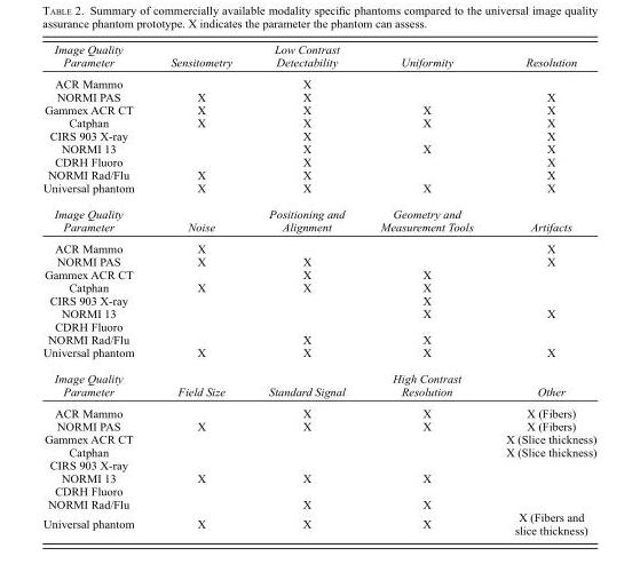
<table><thead><tr><td>Image Quality Parameter</td><td>Sensitometry</td><td>Low Contrast Detectability</td><td>Uniformity</td><td>Resolution</td></tr></thead><tbody><tr><td>ACR Mammo</td><td></td><td>X</td><td></td><td></td></tr><tr><td>NORMI PAS</td><td>X</td><td>X</td><td></td><td>X</td></tr><tr><td>Gammex ACR CT</td><td>X</td><td>X</td><td>X</td><td>X</td></tr><tr><td>Catphan</td><td>X</td><td>X</td><td>X</td><td>X</td></tr><tr><td>CIRS 903 X-ray</td><td></td><td>X</td><td></td><td>X</td></tr><tr><td>NORMI 13</td><td></td><td>X</td><td>X</td><td>X</td></tr><tr><td>CDRH Fluoro</td><td></td><td>X</td><td></td><td>X</td></tr><tr><td>NORMI Rad/Flu</td><td>X</td><td>X</td><td></td><td>X</td></tr><tr><td>Universal phantom</td><td>X</td><td>X</td><td>X</td><td>X</td></tr><tr><td>Image Quality Parameter</td><td>Noise</td><td>Positioning and Alignment</td><td>Geometry and Measurement Tools</td><td>Artifacts</td></tr><tr><td>ACR Mammo</td><td>X</td><td></td><td></td><td>X</td></tr><tr><td>NORMI PAS</td><td>X</td><td>X</td><td></td><td>X</td></tr><tr><td>Gammex ACR CT</td><td></td><td>X</td><td>X</td><td></td></tr><tr><td>Catphan</td><td>X</td><td>X</td><td>X</td><td></td></tr><tr><td>CIRS 903 X-ray</td><td></td><td></td><td>X</td><td></td></tr><tr><td>NORMI 13</td><td></td><td></td><td>X</td><td>X</td></tr><tr><td colspan="5">CDRH Fluoro</td></tr><tr><td>NORMI Rad/Flu</td><td></td><td>X</td><td>X</td><td></td></tr><tr><td>Universal phantom</td><td>X</td><td>X</td><td>X</td><td>X</td></tr><tr><td>Image Quality Parameter</td><td>Field Size</td><td>Standard Signal</td><td>High Contrast Resolution</td><td>Other</td></tr><tr><td>ACR Mammo</td><td></td><td>X</td><td>X</td><td>X (Fibers)</td></tr><tr><td>NORMI PAS</td><td>X</td><td>X</td><td>X</td><td>X (Fibers)</td></tr><tr><td>Gammex ACR CT</td><td></td><td></td><td></td><td>X (Slice thickness)</td></tr><tr><td>Catphan</td><td></td><td></td><td></td><td>X (Slice thickness)</td></tr><tr><td colspan="5">CIRS 903 X-ray</td></tr><tr><td>NORMI 13</td><td>X</td><td>X</td><td>X</td><td></td></tr><tr><td colspan="5">CDRH Fluoro</td></tr><tr><td>NORMI Rad/Flu</td><td></td><td>X</td><td>X</td><td></td></tr><tr><td>Universal phantom</td><td>X</td><td>X</td><td>X</td><td>X (Fibers and slice thickness)</td></tr></tbody></table>